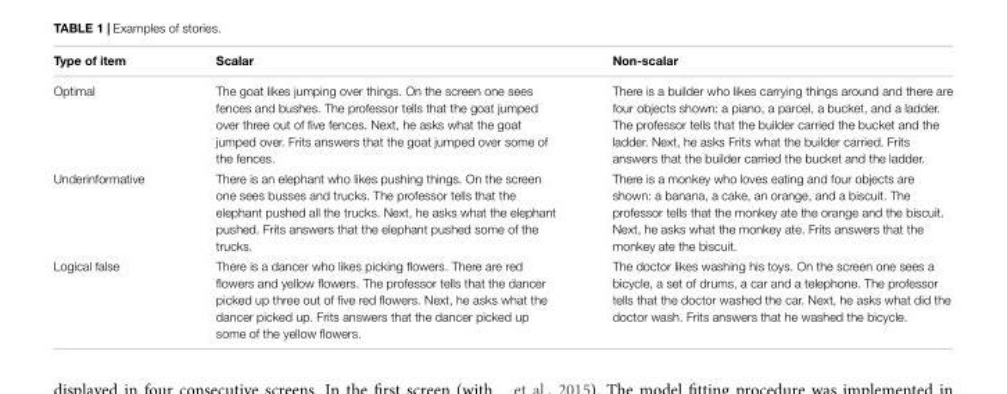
<table><thead><tr><td>Type of item</td><td>Scalar</td><td>Non-scalar</td></tr></thead><tbody><tr><td>Optimal</td><td>The goat likes jumping over things. On the screen one sees fences and bushes. The professor tells that the goat jumped over three out of five fences. Next, he asks what the goat jumped over. Frits answers that the goat jumped over some of the fences.</td><td>There is a builder who likes carrying things around and there are four objects shown: a piano, a parcel, a bucket, and a ladder. The professor tells that the builder carried the bucket and the ladder. Next, he asks Frits what the builder carried. Frits answers that the builder carried the bucket and the ladder.</td></tr><tr><td>Underinformative</td><td>There is an elephant who likes pushing things. On the screen one sees busses and trucks. The professor tells that the elephant pushed all the trucks. Next, he asks what the elephant pushed. Frits answers that the elephant pushed some of the trucks.</td><td>There is a monkey who loves eating and four objects are shown: a banana, a cake, an orange, and a biscuit. The professor tells that the monkey ate the orange and the biscuit. Next, he asks what the monkey ate. Frits answers that the monkey ate the biscuit.</td></tr><tr><td>Logical false</td><td>There is a dancer who likes picking flowers. There are red flowers and yellow flowers. The professor tells that the dancer picked up three out of five red flowers. Next, he asks what the dancer picked up. Frits answers that the dancer picked up some of the yellow flowers.</td><td>The doctor likes washing his toys. On the screen one sees a bicycle, a set of drums, a car and a telephone. The professor tells that the doctor washed the car. Next, he asks what did the doctor wash. Frits answers that he washed the bicycle.</td></tr></tbody></table>